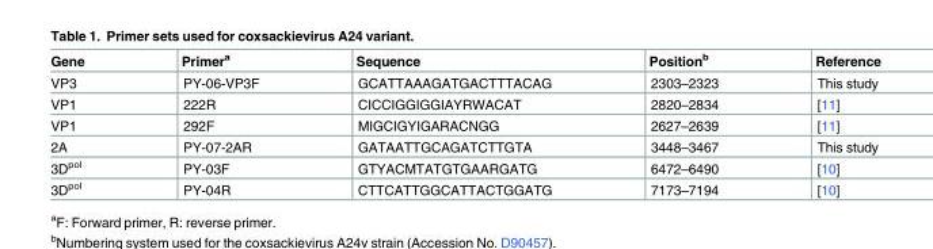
<table><thead><tr><td>Gene</td><td>Primer<sup>a</sup></td><td>Sequence</td><td>Position<sup>b</sup></td><td>Reference</td></tr></thead><tbody><tr><td>VP3</td><td>PY-06-VP3F</td><td>GCATTAAAGATGACTTTACAG</td><td>2303–2323</td><td>This study</td></tr><tr><td>VP1</td><td>222R</td><td>CICCIGGIGGIAYRWACAT</td><td>2820–2834</td><td>[11]</td></tr><tr><td>VP1</td><td>292F</td><td>MIGCIGYIGARACNGG</td><td>2627–2639</td><td>[11]</td></tr><tr><td>2A</td><td>PY-07-2AR</td><td>GATAATTGCAGATCTTGTA</td><td>3448–3467</td><td>This study</td></tr><tr><td>3D<sup>pol</sup></td><td>PY-03F</td><td>GTYACMTATGTGAARGATG</td><td>6472–6490</td><td>[10]</td></tr><tr><td>3D<sup>pol</sup></td><td>PY-04R</td><td>CTTCATTGGCATTACTGGATG</td><td>7173–7194</td><td>[10]</td></tr></tbody></table>